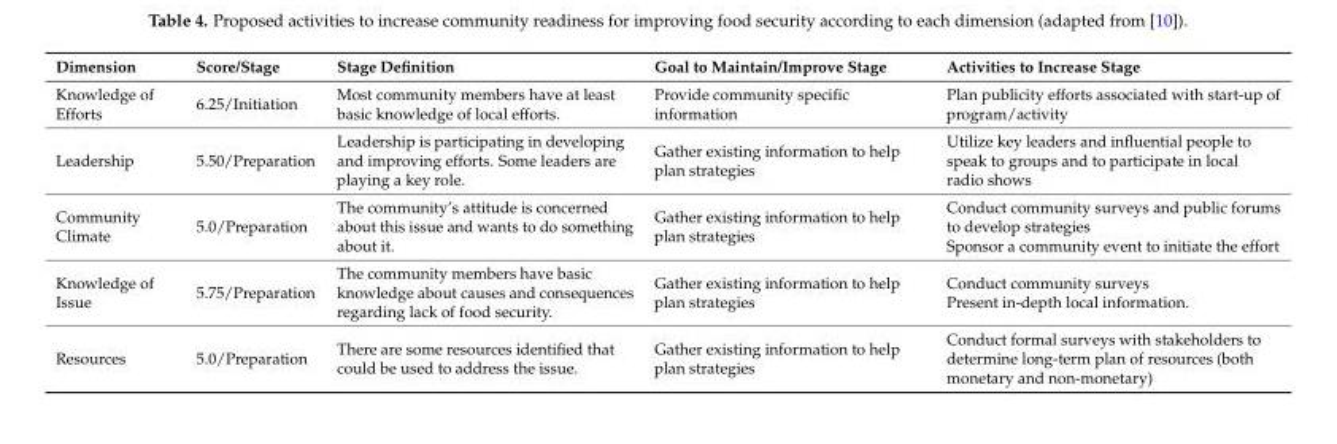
<table><thead><tr><td>Dimension</td><td>Score/Stage</td><td>Stage Definition</td><td>Goal to Maintain/Improve Stage</td><td>Activities to Increase Stage</td></tr></thead><tbody><tr><td>Knowledge of Efforts</td><td>6.25/Initiation</td><td>Most community members have at least basic knowledge of local efforts.</td><td>Provide community specific information</td><td>Plan publicity efforts associated with start-up of program/activity</td></tr><tr><td>Leadership</td><td>5.50/Preparation</td><td>Leadership is participating in developing and improving efforts. Some leaders are playing a key role.</td><td>Gather existing information to help plan strategies</td><td>Utilize key leaders and influential people to speak to groups and to participate in local radio shows</td></tr><tr><td>Community Climate</td><td>5.0/Preparation</td><td>The community’s attitude is concerned about this issue and wants to do something about it.</td><td>Gather existing information to help plan strategies</td><td>Conduct community surveys and public forums to develop strategies Sponsor a community event to initiate the effort</td></tr><tr><td>Knowledge of Issue</td><td>5.75/Preparation</td><td>The community members have basic knowledge about causes and consequences regarding lack of food security.</td><td>Gather existing information to help plan strategies</td><td>Conduct community surveys Present in-depth local information.</td></tr><tr><td>Resources</td><td>5.0/Preparation</td><td>There are some resources identified that could be used to address the issue.</td><td>Gather existing information to help plan strategies</td><td>Conduct formal surveys with stakeholders to determine long-term plan of resources (both monetary and non-monetary)</td></tr></tbody></table>